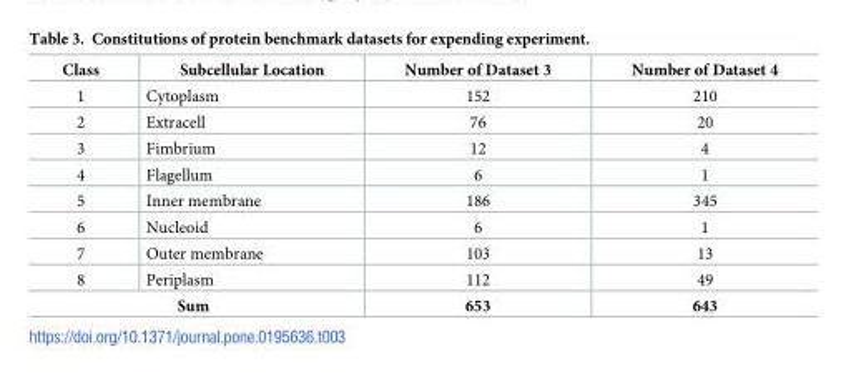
<table><thead><tr><td>Class</td><td>Subcellular Location</td><td>Number of Dataset 3</td><td>Number of Dataset 4</td></tr></thead><tbody><tr><td>1</td><td>Cytoplasm</td><td>152</td><td>210</td></tr><tr><td>2</td><td>Extracell</td><td>76</td><td>20</td></tr><tr><td>3</td><td>Fimbrium</td><td>12</td><td>4</td></tr><tr><td>4</td><td>Flagellum</td><td>6</td><td>1</td></tr><tr><td>5</td><td>Inner membrane</td><td>186</td><td>345</td></tr><tr><td>6</td><td>Nucleoid</td><td>6</td><td>1</td></tr><tr><td>7</td><td>Outer membrane</td><td>103</td><td>13</td></tr><tr><td>8</td><td>Periplasm</td><td>112</td><td>49</td></tr><tr><td colspan="2">Sum</td><td>653</td><td>643</td></tr></tbody></table>